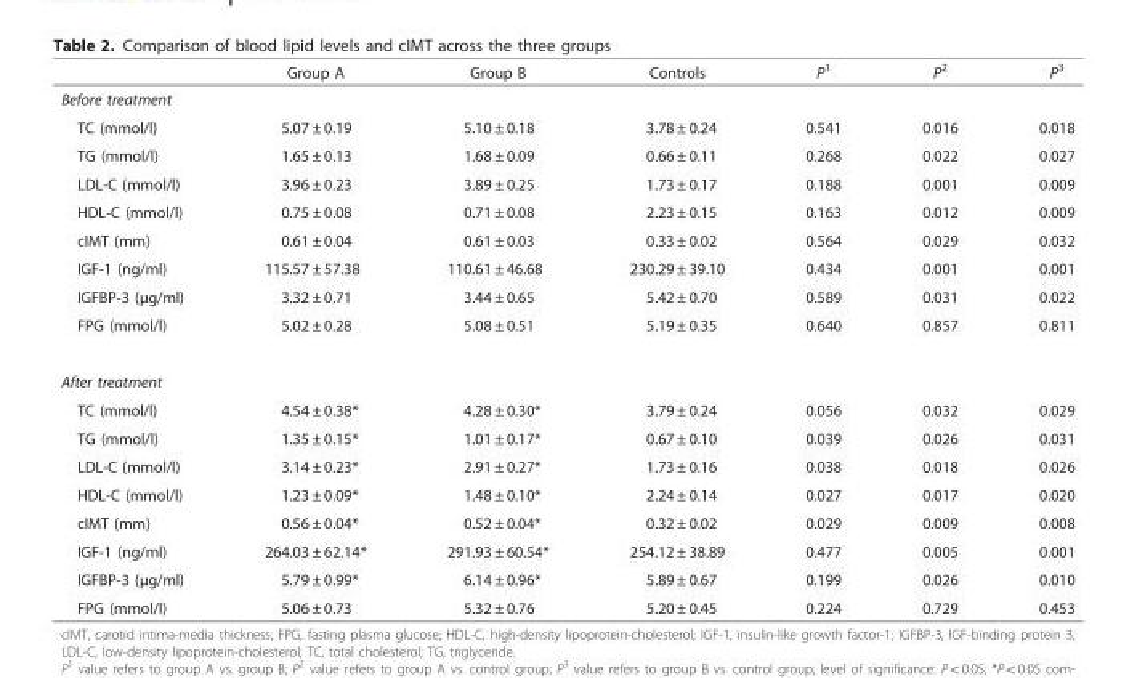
<table><thead><tr><td></td><td>Group A</td><td>Group B</td><td>Controls</td><td>P<sup>1</sup></td><td>P<sup>2</sup></td><td>P<sup>3</sup></td></tr></thead><tbody><tr><td colspan="7">Before treatment</td></tr><tr><td>TC (mmol/l)</td><td>5.07 ± 0.19</td><td>5.10 ± 0.18</td><td>3.78 ± 0.24</td><td>0.541</td><td>0.016</td><td>0.018</td></tr><tr><td>TG (mmol/l)</td><td>1.65 ± 0.13</td><td>1.68 ± 0.09</td><td>0.66 ± 0.11</td><td>0.268</td><td>0.022</td><td>0.027</td></tr><tr><td>LDL-C (mmol/l)</td><td>3.96 ± 0.23</td><td>3.89 ± 0.25</td><td>1.73 ± 0.17</td><td>0.188</td><td>0.001</td><td>0.009</td></tr><tr><td>HDL-C (mmol/l)</td><td>0.75 ± 0.08</td><td>0.71 ± 0.08</td><td>2.23 ± 0.15</td><td>0.163</td><td>0.012</td><td>0.009</td></tr><tr><td>cIMT (mm)</td><td>0.61 ± 0.04</td><td>0.61 ± 0.03</td><td>0.33 ± 0.02</td><td>0.564</td><td>0.029</td><td>0.032</td></tr><tr><td>IGF-1 (ng/ml)</td><td>115.57 ± 57.38</td><td>110.61 ± 46.68</td><td>230.29 ± 39.10</td><td>0.434</td><td>0.001</td><td>0.001</td></tr><tr><td>IGFBP-3 (μg/ml)</td><td>3.32 ± 0.71</td><td>3.44 ± 0.65</td><td>5.42 ± 0.70</td><td>0.589</td><td>0.031</td><td>0.022</td></tr><tr><td>FPG (mmol/l)</td><td>5.02 ± 0.28</td><td>5.08 ± 0.51</td><td>5.19 ± 0.35</td><td>0.640</td><td>0.857</td><td>0.811</td></tr><tr><td colspan="7">After treatment</td></tr><tr><td>TC (mmol/l)</td><td>4.54 ± 0.38*</td><td>4.28 ± 0.30*</td><td>3.79 ± 0.24</td><td>0.056</td><td>0.032</td><td>0.029</td></tr><tr><td>TG (mmol/l)</td><td>1.35 ± 0.15*</td><td>1.01 ± 0.17*</td><td>0.67 ± 0.10</td><td>0.039</td><td>0.026</td><td>0.031</td></tr><tr><td>LDL-C (mmol/l)</td><td>3.14 ± 0.23*</td><td>2.91 ± 0.27*</td><td>1.73 ± 0.16</td><td>0.038</td><td>0.018</td><td>0.026</td></tr><tr><td>HDL-C (mmol/l)</td><td>1.23 ± 0.09*</td><td>1.48 ± 0.10*</td><td>2.24 ± 0.14</td><td>0.027</td><td>0.017</td><td>0.020</td></tr><tr><td>cIMT (mm)</td><td>0.56 ± 0.04*</td><td>0.52 ± 0.04*</td><td>0.32 ± 0.02</td><td>0.029</td><td>0.009</td><td>0.008</td></tr><tr><td>IGF-1 (ng/ml)</td><td>264.03 ± 62.14*</td><td>291.93 ± 60.54*</td><td>254.12 ± 38.89</td><td>0.477</td><td>0.005</td><td>0.001</td></tr><tr><td>IGFBP-3 (μg/ml)</td><td>5.79 ± 0.99*</td><td>6.14 ± 0.96*</td><td>5.89 ± 0.67</td><td>0.199</td><td>0.026</td><td>0.010</td></tr><tr><td>FPG (mmol/l)</td><td>5.06 ± 0.73</td><td>5.32 ± 0.76</td><td>5.20 ± 0.45</td><td>0.224</td><td>0.729</td><td>0.453</td></tr></tbody></table>